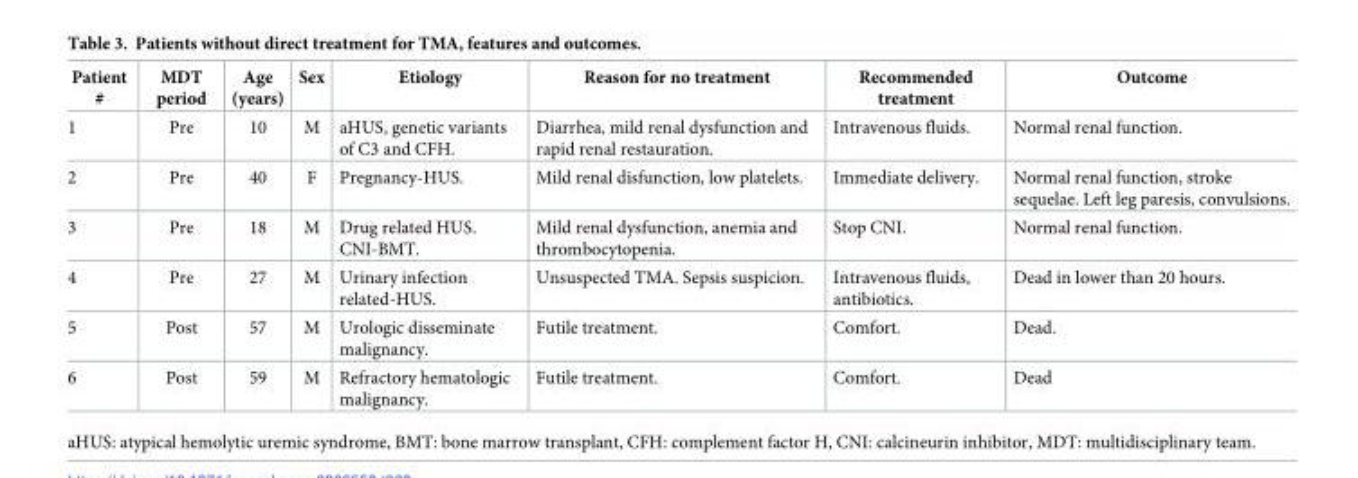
<table><thead><tr><td>Patient #</td><td>MDT period</td><td>Age (years)</td><td>Sex</td><td>Etiology</td><td>Reason for no treatment</td><td>Recommended treatment</td><td>Outcome</td></tr></thead><tbody><tr><td>1</td><td>Pre</td><td>10</td><td>M</td><td>aHUS, genetic variants of C3 and CFH.</td><td>Diarrhea, mild renal dysfunction and rapid renal restauration.</td><td>Intravenous fluids.</td><td>Normal renal function.</td></tr><tr><td>2</td><td>Pre</td><td>40</td><td>F</td><td>Pregnancy-HUS.</td><td>Mild renal disfunction, low platelets.</td><td>Immediate delivery.</td><td>Normal renal function, stroke sequelae. Left leg paresis, convulsions.</td></tr><tr><td>3</td><td>Pre</td><td>18</td><td>M</td><td>Drug related HUS. CNI-BMT.</td><td>Mild renal dysfunction, anemia and thrombocytopenia.</td><td>Stop CNI.</td><td>Normal renal function.</td></tr><tr><td>4</td><td>Pre</td><td>27</td><td>M</td><td>Urinary infection related-HUS.</td><td>Unsuspected TMA. Sepsis suspicion.</td><td>Intravenous fluids, antibiotics.</td><td>Dead in lower than 20 hours.</td></tr><tr><td>5</td><td>Post</td><td>57</td><td>M</td><td>Urologic disseminate malignancy.</td><td>Futile treatment.</td><td>Comfort.</td><td>Dead.</td></tr><tr><td>6</td><td>Post</td><td>59</td><td>M</td><td>Refractory hematologic malignancy.</td><td>Futile treatment.</td><td>Comfort.</td><td>Dead</td></tr></tbody></table>